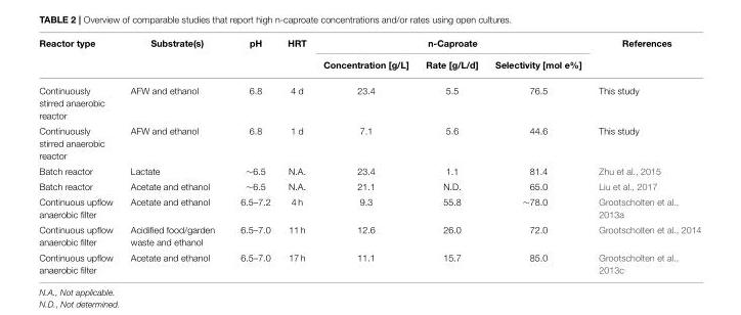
<table><thead><tr><td rowspan="2">Reactor type</td><td rowspan="2">Substrate(s)</td><td rowspan="2">pH</td><td rowspan="2">HRT</td><td colspan="3">n-Caproate</td><td rowspan="2">References</td></tr><tr><td>Concentration [g/L]</td><td>Rate [g/L/d]</td><td>Selectivity [mol e%]</td></tr></thead><tbody><tr><td>Continuously stirred anaerobic reactor</td><td>AFW and ethanol</td><td>6.8</td><td>4 d</td><td>23.4</td><td>5.5</td><td>76.5</td><td>This study</td></tr><tr><td>Continuously stirred anaerobic reactor</td><td>AFW and ethanol</td><td>6.8</td><td>1 d</td><td>7.1</td><td>5.6</td><td>44.6</td><td>This study</td></tr><tr><td>Batch reactor</td><td>Lactate</td><td>∼6.5</td><td>N.A.</td><td>23.4</td><td>1.1</td><td>81.4</td><td>Zhu et al., 2015</td></tr><tr><td>Batch reactor</td><td>Acetate and ethanol</td><td>∼6.5</td><td>N.A.</td><td>21.1</td><td>N.D.</td><td>65.0</td><td>Liu et al., 2017</td></tr><tr><td>Continuous upflow anaerobic filter</td><td>Acetate and ethanol</td><td>6.5–7.2</td><td>4 h</td><td>9.3</td><td>55.8</td><td>∼78.0</td><td>Grootscholten et al., 2013a</td></tr><tr><td>Continuous upflow anaerobic filter</td><td>Acidified food/garden waste and ethanol</td><td>6.5–7.0</td><td>11 h</td><td>12.6</td><td>26.0</td><td>72.0</td><td>Grootscholten et al., 2014</td></tr><tr><td>Continuous upflow anaerobic filter</td><td>Acetate and ethanol</td><td>6.5–7.0</td><td>17 h</td><td>11.1</td><td>15.7</td><td>85.0</td><td>Grootscholten et al., 2013c</td></tr></tbody></table>